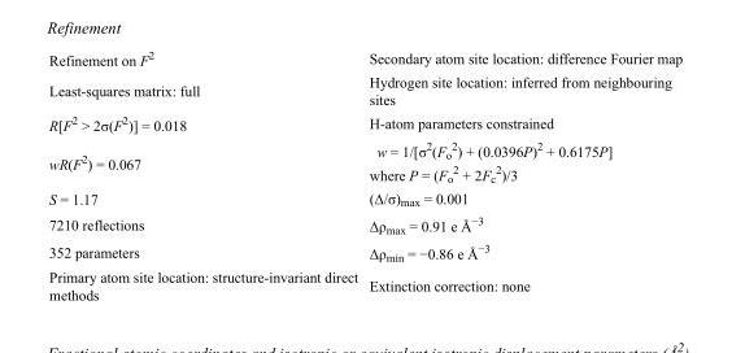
<table><tbody><tr><td>Refinement on F<sup>2</sup></td><td>Secondary atom site location: difference Fourier map</td></tr><tr><td>Least-squares matrix: full</td><td>Hydrogen site location: inferred from neighbouring sites</td></tr><tr><td>R[F<sup>2</sup> &gt; 2σ(F<sup>2</sup>)] = 0.018</td><td>H-atom parameters constrained</td></tr><tr><td>wR(F<sup>2</sup>) = 0.067</td><td>w = 1/[σ<sup>2</sup>(F<sub>o</sub> <sup>2</sup>) + (0.0396P)<sup>2</sup> + 0.6175P] where P = (F<sub>o</sub> <sup>2</sup> + 2F<sub>c</sub> <sup>2</sup>)/3</td></tr><tr><td>S = 1.17</td><td>(Δ/σ)<sub>max</sub> = 0.001</td></tr><tr><td>7210 reflections</td><td>Δρ<sub>max</sub> = 0.91 e Å<sup>−3</sup></td></tr><tr><td>352 parameters</td><td>Δρ<sub>min</sub> = −0.86 e Å<sup>−3</sup></td></tr><tr><td>Primary atom site location: structure-invariant direct methods</td><td>Extinction correction: none</td></tr></tbody></table>